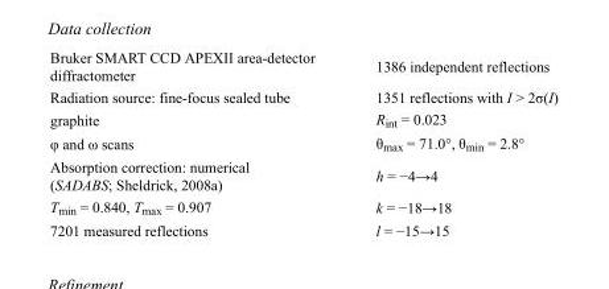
<table><tbody><tr><td>Bruker SMART CCD APEXII area-detector diffractometer</td><td>1386 independent reflections</td></tr><tr><td>Radiation source: fine-focus sealed tube</td><td>1351 reflections with I &gt; 2σ(I)</td></tr><tr><td>graphite</td><td>R<sub>int</sub> = 0.023</td></tr><tr><td>φ and ω scans</td><td>θ<sub>max</sub> = 71.0°, θ<sub>min</sub> = 2.8°</td></tr><tr><td>Absorption correction: numerical (SADABS; Sheldrick, 2008a)</td><td>h = −4→4</td></tr><tr><td>T<sub>min</sub> = 0.840, T<sub>max</sub> = 0.907</td><td>k = −18→18</td></tr><tr><td>7201 measured reflections</td><td>l = −15→15</td></tr></tbody></table>